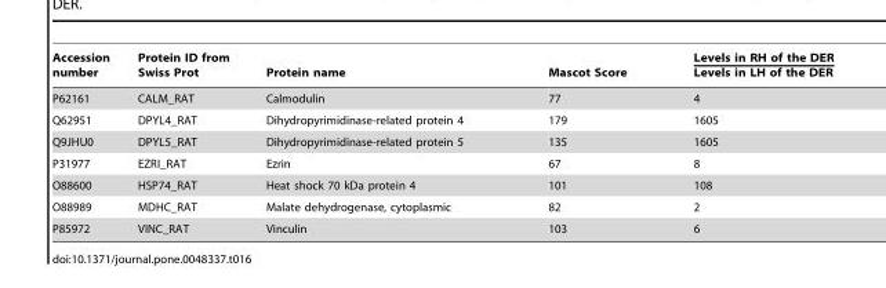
<table><thead><tr><td>Accession number</td><td>Protein ID from Swiss Prot</td><td>Protein name</td><td>Mascot Score</td><td>Levels in RH of the DER Levels in LH of the DER</td></tr></thead><tbody><tr><td>P62161</td><td>CALM_RAT</td><td>Calmodulin</td><td>77</td><td>4</td></tr><tr><td>Q62951</td><td>DPYL4_RAT</td><td>Dihydropyrimidinase-related protein 4</td><td>179</td><td>1605</td></tr><tr><td>Q9JHU0</td><td>DPYL5_RAT</td><td>Dihydropyrimidinase-related protein 5</td><td>135</td><td>1605</td></tr><tr><td>P31977</td><td>EZRI_RAT</td><td>Ezrin</td><td>67</td><td>8</td></tr><tr><td>O88600</td><td>HSP74_RAT</td><td>Heat shock 70 kDa protein 4</td><td>101</td><td>108</td></tr><tr><td>O88989</td><td>MDHC_RAT</td><td>Malate dehydrogenase, cytoplasmic</td><td>82</td><td>2</td></tr><tr><td>P85972</td><td>VINC_RAT</td><td>Vinculin</td><td>103</td><td>6</td></tr></tbody></table>